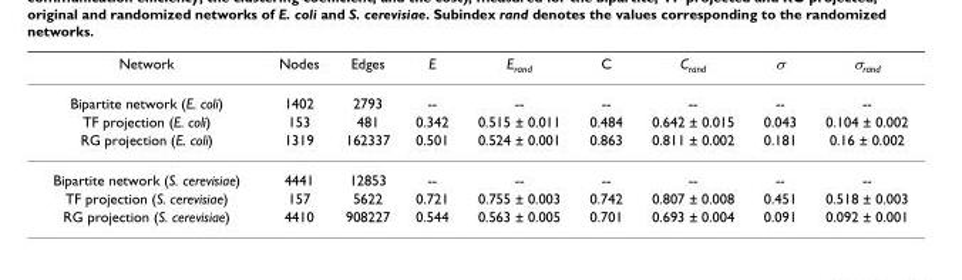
<table><thead><tr><td>Network</td><td>Nodes</td><td>Edges</td><td>E</td><td>E<sub>rand</sub></td><td>C</td><td>C<sub>rand</sub></td><td>σ</td><td>σ<sub>rand</sub></td></tr></thead><tbody><tr><td>Bipartite network (E. coli)</td><td>1402</td><td>2793</td><td>--</td><td>--</td><td>--</td><td>--</td><td>--</td><td>--</td></tr><tr><td>TF projection (E. coli)</td><td>153</td><td>481</td><td>0.342</td><td>0.515 ± 0.011</td><td>0.484</td><td>0.642 ± 0.015</td><td>0.043</td><td>0.104 ± 0.002</td></tr><tr><td>RG projection (E. coli)</td><td>1319</td><td>162337</td><td>0.501</td><td>0.524 ± 0.001</td><td>0.863</td><td>0.811 ± 0.002</td><td>0.181</td><td>0.16 ± 0.002</td></tr><tr><td>Bipartite network (S. cerevisiae)</td><td>4441</td><td>12853</td><td>--</td><td>--</td><td>--</td><td>--</td><td>--</td><td>--</td></tr><tr><td>TF projection (S. cerevisiae)</td><td>157</td><td>5622</td><td>0.721</td><td>0.755 ± 0.003</td><td>0.742</td><td>0.807 ± 0.008</td><td>0.451</td><td>0.518 ± 0.003</td></tr><tr><td>RG projection (S. cerevisiae)</td><td>4410</td><td>908227</td><td>0.544</td><td>0.563 ± 0.005</td><td>0.701</td><td>0.693 ± 0.004</td><td>0.091</td><td>0.092 ± 0.001</td></tr></tbody></table>